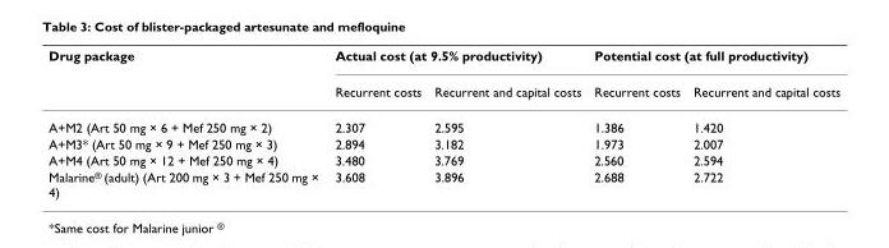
<table><thead><tr><td rowspan="2">Drug package</td><td colspan="2">Actual cost (at 9.5% productivity)</td><td colspan="2">Potential cost (at full productivity)</td></tr><tr><td>Recurrent costs</td><td>Recurrent and capital costs</td><td>Recurrent costs</td><td>Recurrent and capital costs</td></tr></thead><tbody><tr><td>A+M2 (Art 50 mg × 6 + Mef 250 mg × 2)</td><td>2.307</td><td>2.595</td><td>1.386</td><td>1.420</td></tr><tr><td>A+M3* (Art 50 mg × 9 + Mef 250 mg × 3)</td><td>2.894</td><td>3.182</td><td>1.973</td><td>2.007</td></tr><tr><td>A+M4 (Art 50 mg × 12 + Mef 250 mg × 4)</td><td>3.480</td><td>3.769</td><td>2.560</td><td>2.594</td></tr><tr><td>Malarine<sup>®</sup> (adult) (Art 200 mg × 3 + Mef 250 mg × 4)</td><td>3.608</td><td>3.896</td><td>2.688</td><td>2.722</td></tr></tbody></table>